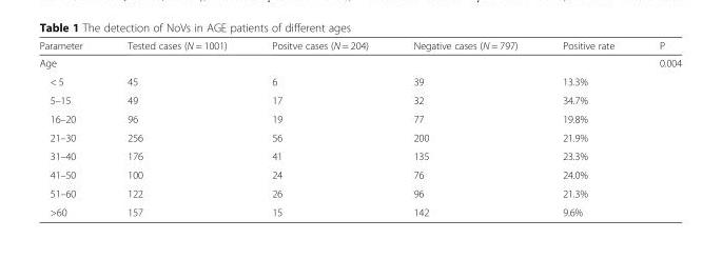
<table><thead><tr><td>Parameter</td><td>Tested cases (N = 1001)</td><td>Positve cases (N = 204)</td><td>Negative cases (N = 797)</td><td>Positive rate</td><td>P</td></tr></thead><tbody><tr><td colspan="5">Age</td><td>0.004</td></tr><tr><td>&lt; 5</td><td>45</td><td>6</td><td>39</td><td>13.3%</td><td rowspan="8"></td></tr><tr><td>5–15</td><td>49</td><td>17</td><td>32</td><td>34.7%</td></tr><tr><td>16–20</td><td>96</td><td>19</td><td>77</td><td>19.8%</td></tr><tr><td>21–30</td><td>256</td><td>56</td><td>200</td><td>21.9%</td></tr><tr><td>31–40</td><td>176</td><td>41</td><td>135</td><td>23.3%</td></tr><tr><td>41–50</td><td>100</td><td>24</td><td>76</td><td>24.0%</td></tr><tr><td>51–60</td><td>122</td><td>26</td><td>96</td><td>21.3%</td></tr><tr><td>&gt;60</td><td>157</td><td>15</td><td>142</td><td>9.6%</td></tr></tbody></table>